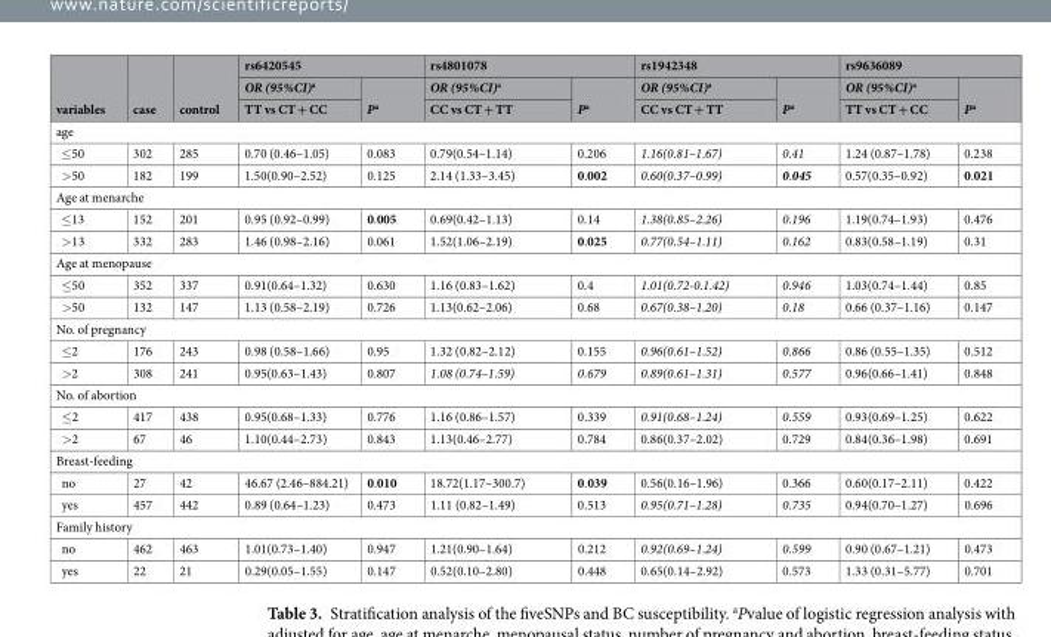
<table><thead><tr><td rowspan="3">variables</td><td rowspan="3">case</td><td rowspan="3">control</td><td colspan="2">rs6420545</td><td colspan="2">rs4801078</td><td colspan="2">rs1942348</td><td colspan="2">rs9636089</td></tr><tr><td rowspan="2">OR (95%CI)<sup>a</sup> TT vs CT + CC</td><td rowspan="2">Pa</td><td rowspan="2">OR (95%CI)<sup>a</sup> CC vs CT + TT</td><td rowspan="2">Pa</td><td rowspan="2">OR (95%CI)<sup>a</sup> CC vs CT + TT</td><td rowspan="2">Pa</td><td rowspan="2">OR (95%CI)<sup>a</sup> TT vs CT + CC</td><td rowspan="2">Pa</td></tr><tr></tr></thead><tbody><tr><td colspan="11">age</td></tr><tr><td>≤50</td><td>302</td><td>285</td><td>0.70 (0.46–1.05)</td><td>0.083</td><td>0.79(0.54–1.14)</td><td>0.206</td><td>1.16(0.81–1.67)</td><td>0.41</td><td>1.24 (0.87–1.78)</td><td>0.238</td></tr><tr><td>&gt;50</td><td>182</td><td>199</td><td>1.50(0.90–2.52)</td><td>0.125</td><td>2.14 (1.33–3.45)</td><td>0.002</td><td>0.60(0.37–0.99)</td><td>0.045</td><td>0.57(0.35–0.92)</td><td>0.021</td></tr><tr><td colspan="11">Age at menarche</td></tr><tr><td>≤13</td><td>152</td><td>201</td><td>0.95 (0.92–0.99)</td><td>0.005</td><td>0.69(0.42–1.13)</td><td>0.14</td><td>1.38(0.85–2.26)</td><td>0.196</td><td>1.19(0.74–1.93)</td><td>0.476</td></tr><tr><td>&gt;13</td><td>332</td><td>283</td><td>1.46 (0.98–2.16)</td><td>0.061</td><td>1.52(1.06–2.19)</td><td>0.025</td><td>0.77(0.54–1.11)</td><td>0.162</td><td>0.83(0.58–1.19)</td><td>0.31</td></tr><tr><td colspan="11">Age at menopause</td></tr><tr><td>≤50</td><td>352</td><td>337</td><td>0.91(0.64–1.32)</td><td>0.630</td><td>1.16 (0.83–1.62)</td><td>0.4</td><td>1.01(0.72-0.1.42)</td><td>0.946</td><td>1.03(0.74–1.44)</td><td>0.85</td></tr><tr><td>&gt;50</td><td>132</td><td>147</td><td>1.13 (0.58–2.19)</td><td>0.726</td><td>1.13(0.62–2.06)</td><td>0.68</td><td>0.67(0.38–1.20)</td><td>0.18</td><td>0.66 (0.37–1.16)</td><td>0.147</td></tr><tr><td colspan="11">No. of pregnancy</td></tr><tr><td>≤2</td><td>176</td><td>243</td><td>0.98 (0.58–1.66)</td><td>0.95</td><td>1.32 (0.82–2.12)</td><td>0.155</td><td>0.96(0.61–1.52)</td><td>0.866</td><td>0.86 (0.55–1.35)</td><td>0.512</td></tr><tr><td>&gt;2</td><td>308</td><td>241</td><td>0.95(0.63–1.43)</td><td>0.807</td><td>1.08 (0.74–1.59)</td><td>0.679</td><td>0.89(0.61–1.31)</td><td>0.577</td><td>0.96(0.66–1.41)</td><td>0.848</td></tr><tr><td colspan="11">No. of abortion</td></tr><tr><td>≤2</td><td>417</td><td>438</td><td>0.95(0.68–1.33)</td><td>0.776</td><td>1.16 (0.86–1.57)</td><td>0.339</td><td>0.91(0.68–1.24)</td><td>0.559</td><td>0.93(0.69–1.25)</td><td>0.622</td></tr><tr><td>&gt;2</td><td>67</td><td>46</td><td>1.10(0.44–2.73)</td><td>0.843</td><td>1.13(0.46–2.77)</td><td>0.784</td><td>0.86(0.37–2.02)</td><td>0.729</td><td>0.84(0.36–1.98)</td><td>0.691</td></tr><tr><td colspan="11">Breast-feeding</td></tr><tr><td>no</td><td>27</td><td>42</td><td>46.67 (2.46–884.21)</td><td>0.010</td><td>18.72(1.17–300.7)</td><td>0.039</td><td>0.56(0.16–1.96)</td><td>0.366</td><td>0.60(0.17–2.11)</td><td>0.422</td></tr><tr><td>yes</td><td>457</td><td>442</td><td>0.89 (0.64–1.23)</td><td>0.473</td><td>1.11 (0.82–1.49)</td><td>0.513</td><td>0.95(0.71–1.28)</td><td>0.735</td><td>0.94(0.70–1.27)</td><td>0.696</td></tr><tr><td colspan="11">Family history</td></tr><tr><td>no</td><td>462</td><td>463</td><td>1.01(0.73–1.40)</td><td>0.947</td><td>1.21(0.90–1.64)</td><td>0.212</td><td>0.92(0.69–1.24)</td><td>0.599</td><td>0.90 (0.67–1.21)</td><td>0.473</td></tr><tr><td>yes</td><td>22</td><td>21</td><td>0.29(0.05–1.55)</td><td>0.147</td><td>0.52(0.10–2.80)</td><td>0.448</td><td>0.65(0.14–2.92)</td><td>0.573</td><td>1.33 (0.31–5.77)</td><td>0.701</td></tr></tbody></table>